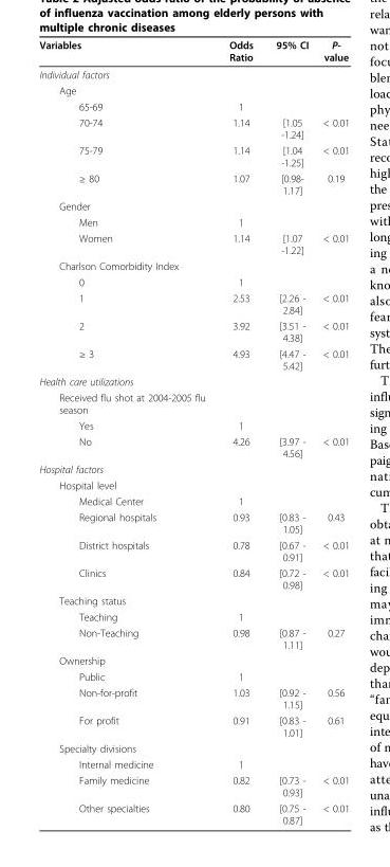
<table><thead><tr><td>Variables</td><td>Odds Ratio</td><td>95% CI</td><td>P- value</td></tr></thead><tbody><tr><td colspan="4">Individual factors</td></tr><tr><td colspan="4">Age</td></tr><tr><td>65-69</td><td>1</td><td></td><td></td></tr><tr><td>70-74</td><td>1.14</td><td>[1.05 -1.24]</td><td>&lt; 0.01</td></tr><tr><td>75-79</td><td>1.14</td><td>[1.04 -1.25]</td><td>&lt; 0.01</td></tr><tr><td>≥ 80</td><td>1.07</td><td>[0.98- 1.17]</td><td>0.19</td></tr><tr><td colspan="4">Gender</td></tr><tr><td>Men</td><td>1</td><td></td><td></td></tr><tr><td>Women</td><td>1.14</td><td>[1.07 -1.22]</td><td>&lt; 0.01</td></tr><tr><td colspan="4">Charlson Comorbidity Index</td></tr><tr><td>0</td><td>1</td><td></td><td></td></tr><tr><td>1</td><td>2.53</td><td>[2.26 - 2.84]</td><td>&lt; 0.01</td></tr><tr><td>2</td><td>3.92</td><td>[3.51 - 4.38]</td><td>&lt; 0.01</td></tr><tr><td>≥ 3</td><td>4.93</td><td>[4.47 - 5.42]</td><td>&lt; 0.01</td></tr><tr><td colspan="4">Health care utilizations</td></tr><tr><td colspan="4">Received flu shot at 2004-2005 flu season</td></tr><tr><td>Yes</td><td>1</td><td></td><td></td></tr><tr><td>No</td><td>4.26</td><td>[3.97 - 4.56]</td><td>&lt; 0.01</td></tr><tr><td colspan="4">Hospital factors</td></tr><tr><td colspan="4">Hospital level</td></tr><tr><td>Medical Center</td><td>1</td><td></td><td></td></tr><tr><td>Regional hospitals</td><td>0.93</td><td>[0.83 - 1.05]</td><td>0.43</td></tr><tr><td>District hospitals</td><td>0.78</td><td>[0.67 - 0.91]</td><td>&lt; 0.01</td></tr><tr><td>Clinics</td><td>0.84</td><td>[0.72 - 0.98]</td><td>&lt; 0.01</td></tr><tr><td colspan="4">Teaching status</td></tr><tr><td>Teaching</td><td>1</td><td></td><td></td></tr><tr><td>Non-Teaching</td><td>0.98</td><td>[0.87 - 1.11]</td><td>0.27</td></tr><tr><td colspan="4">Ownership</td></tr><tr><td>Public</td><td>1</td><td></td><td></td></tr><tr><td>Non-for-profit</td><td>1.03</td><td>[0.92 - 1.15]</td><td>0.56</td></tr><tr><td>For profit</td><td>0.91</td><td>[0.83 - 1.01]</td><td>0.61</td></tr><tr><td colspan="4">Specialty divisions</td></tr><tr><td>Internal medicine</td><td>1</td><td></td><td></td></tr><tr><td>Family medicine</td><td>0.82</td><td>[0.73 - 0.93]</td><td>&lt; 0.01</td></tr><tr><td>Other specialties</td><td>0.80</td><td>[0.75 - 0.87]</td><td>&lt; 0.01</td></tr></tbody></table>